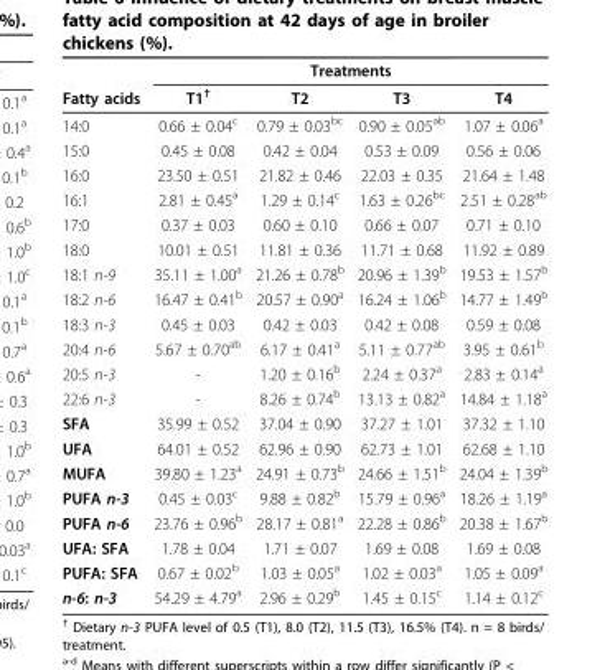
<table><thead><tr><td rowspan="2">Fatty acids</td><td colspan="4">Treatments</td></tr><tr><td>T1<sup>†</sup></td><td>T2</td><td>T3</td><td>T4</td></tr></thead><tbody><tr><td>14:0</td><td>0.66 ± 0.04<sup>c</sup></td><td>0.79 ± 0.03<sup>bc</sup></td><td>0.90 ± 0.05<sup>ab</sup></td><td>1.07 ± 0.06<sup>a</sup></td></tr><tr><td>15:0</td><td>0.45 ± 0.08</td><td>0.42 ± 0.04</td><td>0.53 ± 0.09</td><td>0.56 ± 0.06</td></tr><tr><td>16:0</td><td>23.50 ± 0.51</td><td>21.82 ± 0.46</td><td>22.03 ± 0.35</td><td>21.64 ± 1.48</td></tr><tr><td>16:1</td><td>2.81 ± 0.45<sup>a</sup></td><td>1.29 ± 0.14<sup>c</sup></td><td>1.63 ± 0.26<sup>bc</sup></td><td>2.51 ± 0.28<sup>ab</sup></td></tr><tr><td>17:0</td><td>0.37 ± 0.03</td><td>0.60 ± 0.10</td><td>0.66 ± 0.07</td><td>0.71 ± 0.10</td></tr><tr><td>18:0</td><td>10.01 ± 0.51</td><td>11.81 ± 0.36</td><td>11.71 ± 0.68</td><td>11.92 ± 0.89</td></tr><tr><td>18:1 n-9</td><td>35.11 ± 1.00<sup>a</sup></td><td>21.26 ± 0.78<sup>b</sup></td><td>20.96 ± 1.39<sup>b</sup></td><td>19.53 ± 1.57<sup>b</sup></td></tr><tr><td>18:2 n-6</td><td>16.47 ± 0.41<sup>b</sup></td><td>20.57 ± 0.90<sup>a</sup></td><td>16.24 ± 1.06<sup>b</sup></td><td>14.77 ± 1.49<sup>b</sup></td></tr><tr><td>18:3 n-3</td><td>0.45 ± 0.03</td><td>0.42 ± 0.03</td><td>0.42 ± 0.08</td><td>0.59 ± 0.08</td></tr><tr><td>20:4 n-6</td><td>5.67 ± 0.70<sup>ab</sup></td><td>6.17 ± 0.41<sup>a</sup></td><td>5.11 ± 0.77<sup>ab</sup></td><td>3.95 ± 0.61<sup>b</sup></td></tr><tr><td>20:5 n-3</td><td>-</td><td>1.20 ± 0.16<sup>b</sup></td><td>2.24 ± 0.37<sup>a</sup></td><td>2.83 ± 0.14<sup>a</sup></td></tr><tr><td>22:6 n-3</td><td>-</td><td>8.26 ± 0.74<sup>b</sup></td><td>13.13 ± 0.82<sup>a</sup></td><td>14.84 ± 1.18<sup>a</sup></td></tr><tr><td>SFA</td><td>35.99 ± 0.52</td><td>37.04 ± 0.90</td><td>37.27 ± 1.01</td><td>37.32 ± 1.10</td></tr><tr><td>UFA</td><td>64.01 ± 0.52</td><td>62.96 ± 0.90</td><td>62.73 ± 1.01</td><td>62.68 ± 1.10</td></tr><tr><td>MUFA</td><td>39.80 ± 1.23<sup>a</sup></td><td>24.91 ± 0.73<sup>b</sup></td><td>24.66 ± 1.51<sup>b</sup></td><td>24.04 ± 1.39<sup>b</sup></td></tr><tr><td>PUFA n-3</td><td>0.45 ± 0.03<sup>c</sup></td><td>9.88 ± 0.82<sup>b</sup></td><td>15.79 ± 0.96<sup>a</sup></td><td>18.26 ± 1.19<sup>a</sup></td></tr><tr><td>PUFA n-6</td><td>23.76 ± 0.96<sup>b</sup></td><td>28.17 ± 0.81<sup>a</sup></td><td>22.28 ± 0.86<sup>b</sup></td><td>20.38 ± 1.67<sup>b</sup></td></tr><tr><td>UFA: SFA</td><td>1.78 ± 0.04</td><td>1.71 ± 0.07</td><td>1.69 ± 0.08</td><td>1.69 ± 0.08</td></tr><tr><td>PUFA: SFA</td><td>0.67 ± 0.02<sup>b</sup></td><td>1.03 ± 0.05<sup>a</sup></td><td>1.02 ± 0.03<sup>a</sup></td><td>1.05 ± 0.09<sup>a</sup></td></tr><tr><td>n-6: n-3</td><td>54.29 ± 4.79<sup>a</sup></td><td>2.96 ± 0.29<sup>b</sup></td><td>1.45 ± 0.15<sup>c</sup></td><td>1.14 ± 0.12<sup>c</sup></td></tr></tbody></table>